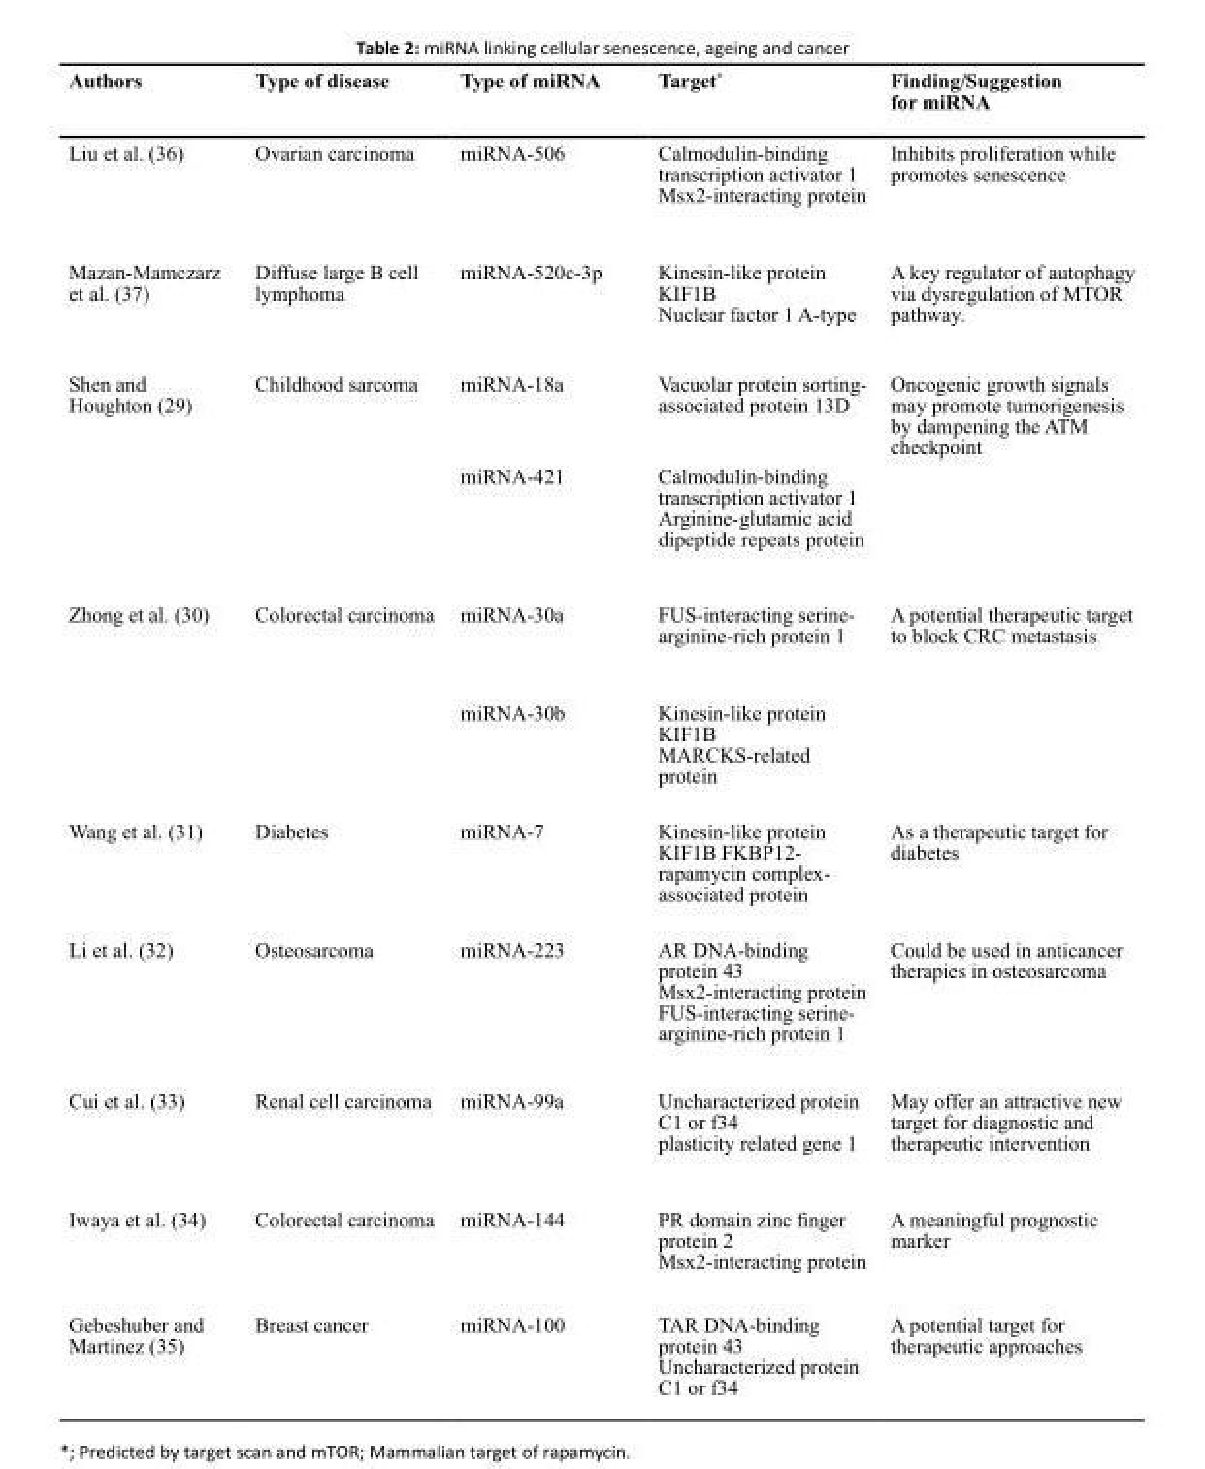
<table><thead><tr><td>Authors</td><td>Type of disease</td><td>Type of miRNA</td><td>Target*</td><td>Finding/Suggestion for miRNA</td></tr></thead><tbody><tr><td>Liu et al. (36)</td><td>Ovarian carcinoma</td><td>miRNA-506</td><td>Calmodulin-binding transcription activator 1 Msx2-interacting protein</td><td>Inhibits proliferation while promotes senescence</td></tr><tr><td>Mazan-Mamczarz et al. (37)</td><td>Diffuse large B cell lymphoma</td><td>miRNA-520c-3p</td><td>Kinesin-like protein KIF1B Nuclear factor 1 A-type</td><td>A key regulator of autophagy via dysregulation of MTOR pathway.</td></tr><tr><td rowspan="2">Shen and Houghton (29)</td><td rowspan="2">Childhood sarcoma</td><td>miRNA-18a</td><td>Vacuolar protein sorting- associated protein 13D</td><td rowspan="2">Oncogenic growth signals may promote tumorigenesis by dampening the ATM checkpoint</td></tr><tr><td>miRNA-421</td><td>Calmodulin-binding transcription activator 1 Arginine-glutamic acid dipeptide repeats protein</td></tr><tr><td rowspan="2">Zhong et al. (30)</td><td rowspan="2">Colorectal carcinoma</td><td>miRNA-30a</td><td>FUS-interacting serine- arginine-rich protein 1</td><td rowspan="2">A potential therapeutic target to block CRC metastasis</td></tr><tr><td>miRNA-30b</td><td>Kinesin-like protein KIF1B MARCKS-related protein</td></tr><tr><td>Wang et al. (31)</td><td>Diabetes</td><td>miRNA-7</td><td>Kinesin-like protein KIF1B FKBP12- rapamycin complex- associated protein</td><td>As a therapeutic target for diabetes</td></tr><tr><td>Li et al. (32)</td><td>Osteosarcoma</td><td>miRNA-223</td><td>AR DNA-binding protein 43 Msx2-interacting protein FUS-interacting serine- arginine-rich protein 1</td><td>Could be used in anticancer therapies in osteosarcoma</td></tr><tr><td>Cui et al. (33)</td><td>Renal cell carcinoma</td><td>miRNA-99a</td><td>Uncharacterized protein C1 or f34 plasticity related gene 1</td><td>May offer an attractive new target for diagnostic and therapeutic intervention</td></tr><tr><td>Iwaya et al. (34)</td><td>Colorectal carcinoma</td><td>miRNA-144</td><td>PR domain zinc finger protein 2 Msx2-interacting protein</td><td>A meaningful prognostic marker</td></tr><tr><td>Gebeshuber and Martinez (35)</td><td>Breast cancer</td><td>miRNA-100</td><td>TAR DNA-binding protein 43 Uncharacterized protein C1 or f34</td><td>A potential target for therapeutic approaches</td></tr></tbody></table>